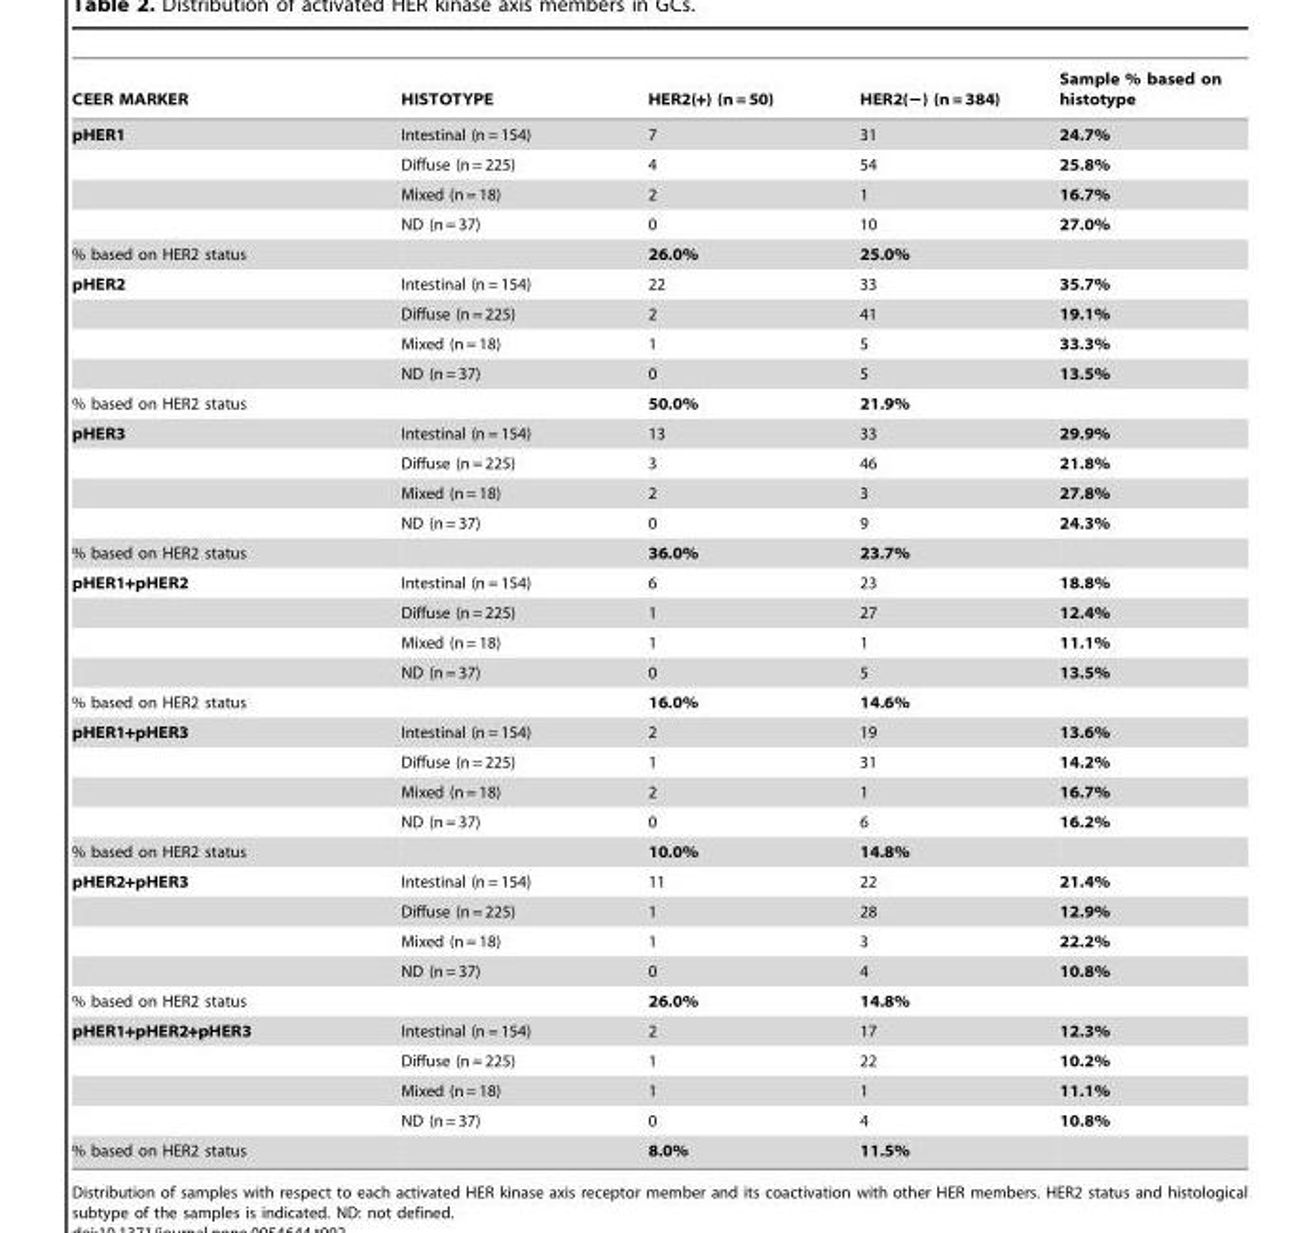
<table><thead><tr><td>CEER MARKER</td><td>HISTOTYPE</td><td>HER2(+) (n = 50)</td><td>HER2(−) (n = 384)</td><td>Sample % based on histotype</td></tr></thead><tbody><tr><td rowspan="4">pHER1</td><td>Intestinal (n = 154)</td><td>7</td><td>31</td><td>24.7%</td></tr><tr><td>Diffuse (n = 225)</td><td>4</td><td>54</td><td>25.8%</td></tr><tr><td>Mixed (n = 18)</td><td>2</td><td>1</td><td>16.7%</td></tr><tr><td>ND (n = 37)</td><td>0</td><td>10</td><td>27.0%</td></tr><tr><td>% based on HER2 status</td><td></td><td>26.0%</td><td>25.0%</td><td></td></tr><tr><td rowspan="4">pHER2</td><td>Intestinal (n = 154)</td><td>22</td><td>33</td><td>35.7%</td></tr><tr><td>Diffuse (n = 225)</td><td>2</td><td>41</td><td>19.1%</td></tr><tr><td>Mixed (n = 18)</td><td>1</td><td>5</td><td>33.3%</td></tr><tr><td>ND (n = 37)</td><td>0</td><td>5</td><td>13.5%</td></tr><tr><td>% based on HER2 status</td><td></td><td>50.0%</td><td>21.9%</td><td></td></tr><tr><td rowspan="4">pHER3</td><td>Intestinal (n = 154)</td><td>13</td><td>33</td><td>29.9%</td></tr><tr><td>Diffuse (n = 225)</td><td>3</td><td>46</td><td>21.8%</td></tr><tr><td>Mixed (n = 18)</td><td>2</td><td>3</td><td>27.8%</td></tr><tr><td>ND (n = 37)</td><td>0</td><td>9</td><td>24.3%</td></tr><tr><td>% based on HER2 status</td><td></td><td>36.0%</td><td>23.7%</td><td></td></tr><tr><td rowspan="4">pHER1+pHER2</td><td>Intestinal (n = 154)</td><td>6</td><td>23</td><td>18.8%</td></tr><tr><td>Diffuse (n = 225)</td><td>1</td><td>27</td><td>12.4%</td></tr><tr><td>Mixed (n = 18)</td><td>1</td><td>1</td><td>11.1%</td></tr><tr><td>ND (n = 37)</td><td>0</td><td>5</td><td>13.5%</td></tr><tr><td>% based on HER2 status</td><td></td><td>16.0%</td><td>14.6%</td><td></td></tr><tr><td rowspan="4">pHER1+pHER3</td><td>Intestinal (n = 154)</td><td>2</td><td>19</td><td>13.6%</td></tr><tr><td>Diffuse (n = 225)</td><td>1</td><td>31</td><td>14.2%</td></tr><tr><td>Mixed (n = 18)</td><td>2</td><td>1</td><td>16.7%</td></tr><tr><td>ND (n = 37)</td><td>0</td><td>6</td><td>16.2%</td></tr><tr><td>% based on HER2 status</td><td></td><td>10.0%</td><td>14.8%</td><td></td></tr><tr><td rowspan="4">pHER2+pHER3</td><td>Intestinal (n = 154)</td><td>11</td><td>22</td><td>21.4%</td></tr><tr><td>Diffuse (n = 225)</td><td>1</td><td>28</td><td>12.9%</td></tr><tr><td>Mixed (n = 18)</td><td>1</td><td>3</td><td>22.2%</td></tr><tr><td>ND (n = 37)</td><td>0</td><td>4</td><td>10.8%</td></tr><tr><td>% based on HER2 status</td><td></td><td>26.0%</td><td>14.8%</td><td></td></tr><tr><td rowspan="4">pHER1+pHER2+pHER3</td><td>Intestinal (n = 154)</td><td>2</td><td>17</td><td>12.3%</td></tr><tr><td>Diffuse (n = 225)</td><td>1</td><td>22</td><td>10.2%</td></tr><tr><td>Mixed (n = 18)</td><td>1</td><td>1</td><td>11.1%</td></tr><tr><td>ND (n = 37)</td><td>0</td><td>4</td><td>10.8%</td></tr><tr><td>% based on HER2 status</td><td></td><td>8.0%</td><td>11.5%</td><td></td></tr></tbody></table>